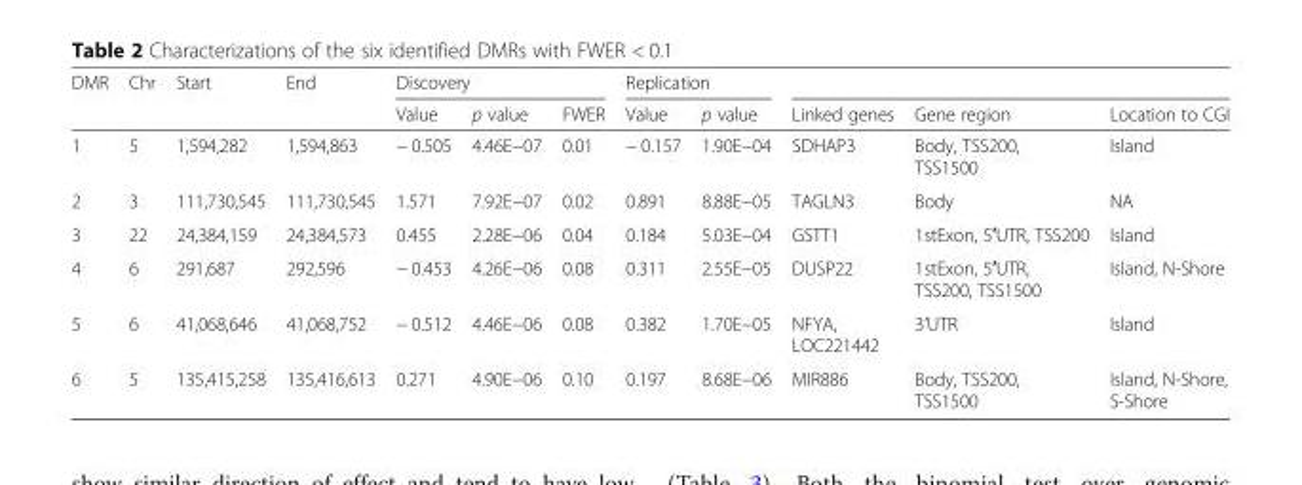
<table><thead><tr><td rowspan="2">DMR</td><td rowspan="2">Chr</td><td rowspan="2">Start</td><td rowspan="2">End</td><td colspan="3">Discovery</td><td colspan="2">Replication</td><td rowspan="2">Linked genes</td><td rowspan="2">Gene region</td><td rowspan="2">Location to CGI</td></tr><tr><td>Value</td><td>p value</td><td>FWER</td><td>Value</td><td>p value</td></tr></thead><tbody><tr><td>1</td><td>5</td><td>1,594,282</td><td>1,594,863</td><td>− 0.505</td><td>4.46E−07</td><td>0.01</td><td>− 0.157</td><td>1.90E−04</td><td>SDHAP3</td><td>Body, TSS200, TSS1500</td><td>Island</td></tr><tr><td>2</td><td>3</td><td>111,730,545</td><td>111,730,545</td><td>1.571</td><td>7.92E−07</td><td>0.02</td><td>0.891</td><td>8.88E−05</td><td>TAGLN3</td><td>Body</td><td>NA</td></tr><tr><td>3</td><td>22</td><td>24,384,159</td><td>24,384,573</td><td>0.455</td><td>2.28E−06</td><td>0.04</td><td>0.184</td><td>5.03E−04</td><td>GSTT1</td><td>1stExon, 5′UTR, TSS200</td><td>Island</td></tr><tr><td>4</td><td>6</td><td>291,687</td><td>292,596</td><td>− 0.453</td><td>4.26E−06</td><td>0.08</td><td>0.311</td><td>2.55E−05</td><td>DUSP22</td><td>1stExon, 5′UTR, TSS200, TSS1500</td><td>Island, N-Shore</td></tr><tr><td>5</td><td>6</td><td>41,068,646</td><td>41,068,752</td><td>− 0.512</td><td>4.46E−06</td><td>0.08</td><td>0.382</td><td>1.70E−05</td><td>NFYA, LOC221442</td><td>3’UTR</td><td>Island</td></tr><tr><td>6</td><td>5</td><td>135,415,258</td><td>135,416,613</td><td>0.271</td><td>4.90E−06</td><td>0.10</td><td>0.197</td><td>8.68E−06</td><td>MIR886</td><td>Body, TSS200, TSS1500</td><td>Island, N-Shore, S-Shore</td></tr></tbody></table>